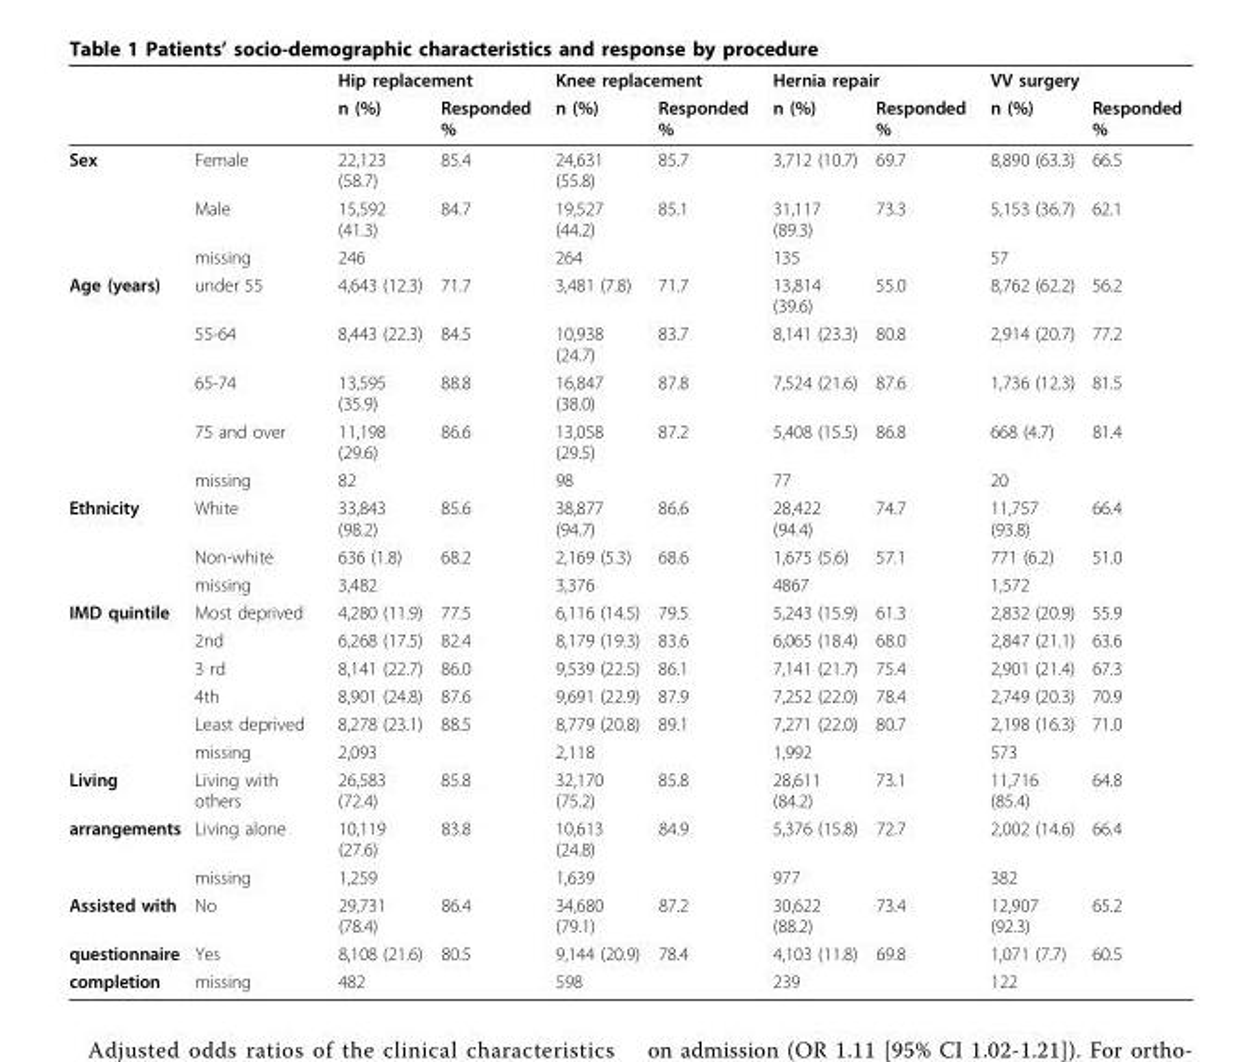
<table><thead><tr><td rowspan="2"></td><td rowspan="2"></td><td colspan="2">Hip replacement</td><td colspan="2">Knee replacement</td><td colspan="2">Hernia repair</td><td colspan="2">VV surgery</td></tr><tr><td>n (%)</td><td>Responded %</td><td>n (%)</td><td>Responded %</td><td>n (%)</td><td>Responded %</td><td>n (%)</td><td>Responded %</td></tr></thead><tbody><tr><td rowspan="3">Sex</td><td>Female</td><td>22,123 (58.7)</td><td>85.4</td><td>24,631 (55.8)</td><td>85.7</td><td>3,712 (10.7)</td><td>69.7</td><td>8,890 (63.3)</td><td>66.5</td></tr><tr><td>Male</td><td>15,592 (41.3)</td><td>84.7</td><td>19,527 (44.2)</td><td>85.1</td><td>31,117 (89.3)</td><td>73.3</td><td>5,153 (36.7)</td><td>62.1</td></tr><tr><td>missing</td><td>246</td><td></td><td>264</td><td></td><td>135</td><td></td><td>57</td><td></td></tr><tr><td rowspan="5">Age (years)</td><td>under 55</td><td>4,643 (12.3)</td><td>71.7</td><td>3,481 (7.8)</td><td>71.7</td><td>13,814 (39.6)</td><td>55.0</td><td>8,762 (62.2)</td><td>56.2</td></tr><tr><td>55-64</td><td>8,443 (22.3)</td><td>84.5</td><td>10,938 (24.7)</td><td>83.7</td><td>8,141 (23.3)</td><td>80.8</td><td>2,914 (20.7)</td><td>77.2</td></tr><tr><td>65-74</td><td>13,595 (35.9)</td><td>88.8</td><td>16,847 (38.0)</td><td>87.8</td><td>7,524 (21.6)</td><td>87.6</td><td>1,736 (12.3)</td><td>81.5</td></tr><tr><td>75 and over</td><td>11,198 (29.6)</td><td>86.6</td><td>13,058 (29.5)</td><td>87.2</td><td>5,408 (15.5)</td><td>86.8</td><td>668 (4.7)</td><td>81.4</td></tr><tr><td>missing</td><td>82</td><td></td><td>98</td><td></td><td>77</td><td></td><td>20</td><td></td></tr><tr><td rowspan="3">Ethnicity</td><td>White</td><td>33,843 (98.2)</td><td>85.6</td><td>38,877 (94.7)</td><td>86.6</td><td>28,422 (94.4)</td><td>74.7</td><td>11,757 (93.8)</td><td>66.4</td></tr><tr><td>Non-white</td><td>636 (1.8)</td><td>68.2</td><td>2,169 (5.3)</td><td>68.6</td><td>1,675 (5.6)</td><td>57.1</td><td>771 (6.2)</td><td>51.0</td></tr><tr><td>missing</td><td>3,482</td><td></td><td>3,376</td><td></td><td>4867</td><td></td><td>1,572</td><td></td></tr><tr><td rowspan="6">IMD quintile</td><td>Most deprived</td><td>4,280 (11.9)</td><td>77.5</td><td>6,116 (14.5)</td><td>79.5</td><td>5,243 (15.9)</td><td>61.3</td><td>2,832 (20.9)</td><td>55.9</td></tr><tr><td>2nd</td><td>6,268 (17.5)</td><td>82.4</td><td>8,179 (19.3)</td><td>83.6</td><td>6,065 (18.4)</td><td>68.0</td><td>2,847 (21.1)</td><td>63.6</td></tr><tr><td>3 rd</td><td>8,141 (22.7)</td><td>86.0</td><td>9,539 (22.5)</td><td>86.1</td><td>7,141 (21.7)</td><td>75.4</td><td>2,901 (21.4)</td><td>67.3</td></tr><tr><td>4th</td><td>8,901 (24.8)</td><td>87.6</td><td>9,691 (22.9)</td><td>87.9</td><td>7,252 (22.0)</td><td>78.4</td><td>2,749 (20.3)</td><td>70.9</td></tr><tr><td>Least deprived</td><td>8,278 (23.1)</td><td>88.5</td><td>8,779 (20.8)</td><td>89.1</td><td>7,271 (22.0)</td><td>80.7</td><td>2,198 (16.3)</td><td>71.0</td></tr><tr><td>missing</td><td>2,093</td><td></td><td>2,118</td><td></td><td>1,992</td><td></td><td>573</td><td></td></tr><tr><td>Living</td><td>Living with others</td><td>26,583 (72.4)</td><td>85.8</td><td>32,170 (75.2)</td><td>85.8</td><td>28,611 (84.2)</td><td>73.1</td><td>11,716 (85.4)</td><td>64.8</td></tr><tr><td rowspan="2">arrangements</td><td>Living alone</td><td>10,119 (27.6)</td><td>83.8</td><td>10,613 (24.8)</td><td>84.9</td><td>5,376 (15.8)</td><td>72.7</td><td>2,002 (14.6)</td><td>66.4</td></tr><tr><td>missing</td><td>1,259</td><td></td><td>1,639</td><td></td><td>977</td><td></td><td>382</td><td></td></tr><tr><td>Assisted with</td><td>No</td><td>29,731 (78.4)</td><td>86.4</td><td>34,680 (79.1)</td><td>87.2</td><td>30,622 (88.2)</td><td>73.4</td><td>12,907 (92.3)</td><td>65.2</td></tr><tr><td>questionnaire</td><td>Yes</td><td>8,108 (21.6)</td><td>80.5</td><td>9,144 (20.9)</td><td>78.4</td><td>4,103 (11.8)</td><td>69.8</td><td>1,071 (7.7)</td><td>60.5</td></tr><tr><td>completion</td><td>missing</td><td>482</td><td></td><td>598</td><td></td><td>239</td><td></td><td>122</td><td></td></tr></tbody></table>